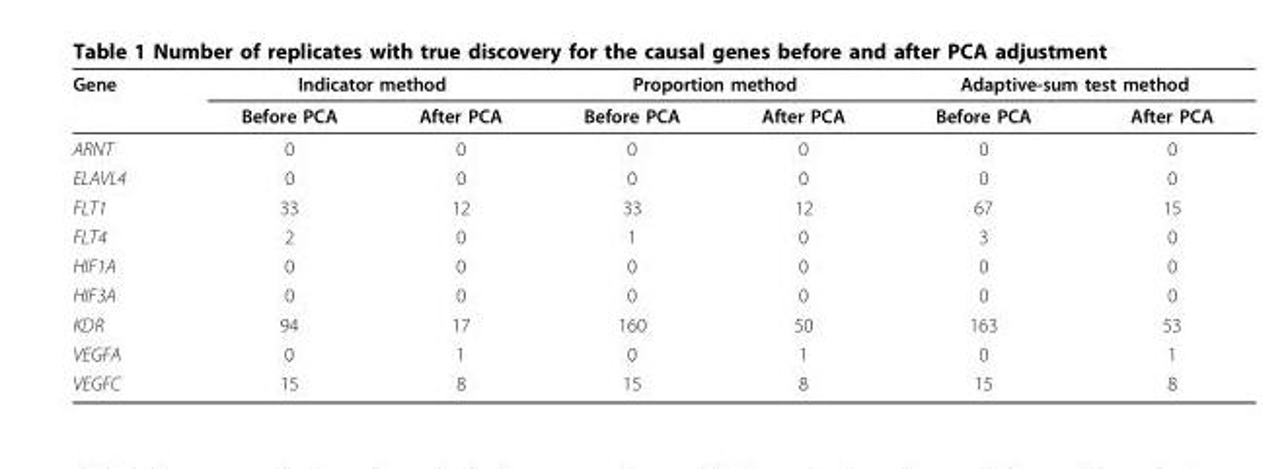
<table><thead><tr><td rowspan="2">Gene</td><td colspan="2">Indicator method</td><td colspan="2">Proportion method</td><td colspan="2">Adaptive-sum test method</td></tr><tr><td>Before PCA</td><td>After PCA</td><td>Before PCA</td><td>After PCA</td><td>Before PCA</td><td>After PCA</td></tr></thead><tbody><tr><td>ARNT</td><td>0</td><td>0</td><td>0</td><td>0</td><td>0</td><td>0</td></tr><tr><td>ELAVL4</td><td>0</td><td>0</td><td>0</td><td>0</td><td>0</td><td>0</td></tr><tr><td>FLT1</td><td>33</td><td>12</td><td>33</td><td>12</td><td>67</td><td>15</td></tr><tr><td>FLT4</td><td>2</td><td>0</td><td>1</td><td>0</td><td>3</td><td>0</td></tr><tr><td>HIF1A</td><td>0</td><td>0</td><td>0</td><td>0</td><td>0</td><td>0</td></tr><tr><td>HIF3A</td><td>0</td><td>0</td><td>0</td><td>0</td><td>0</td><td>0</td></tr><tr><td>KDR</td><td>94</td><td>17</td><td>160</td><td>50</td><td>163</td><td>53</td></tr><tr><td>VEGFA</td><td>0</td><td>1</td><td>0</td><td>1</td><td>0</td><td>1</td></tr><tr><td>VEGFC</td><td>15</td><td>8</td><td>15</td><td>8</td><td>15</td><td>8</td></tr></tbody></table>